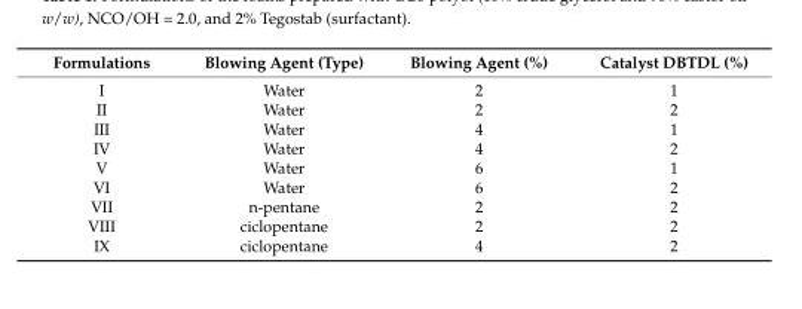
<table><thead><tr><td>Formulations</td><td>Blowing Agent (Type)</td><td>Blowing Agent (%)</td><td>Catalyst DBTDL (%)</td></tr></thead><tbody><tr><td>I</td><td>Water</td><td>2</td><td>1</td></tr><tr><td>II</td><td>Water</td><td>2</td><td>2</td></tr><tr><td>III</td><td>Water</td><td>4</td><td>1</td></tr><tr><td>IV</td><td>Water</td><td>4</td><td>2</td></tr><tr><td>V</td><td>Water</td><td>6</td><td>1</td></tr><tr><td>VI</td><td>Water</td><td>6</td><td>2</td></tr><tr><td>VII</td><td>n-pentane</td><td>2</td><td>2</td></tr><tr><td>VIII</td><td>ciclopentane</td><td>2</td><td>2</td></tr><tr><td>IX</td><td>ciclopentane</td><td>4</td><td>2</td></tr></tbody></table>